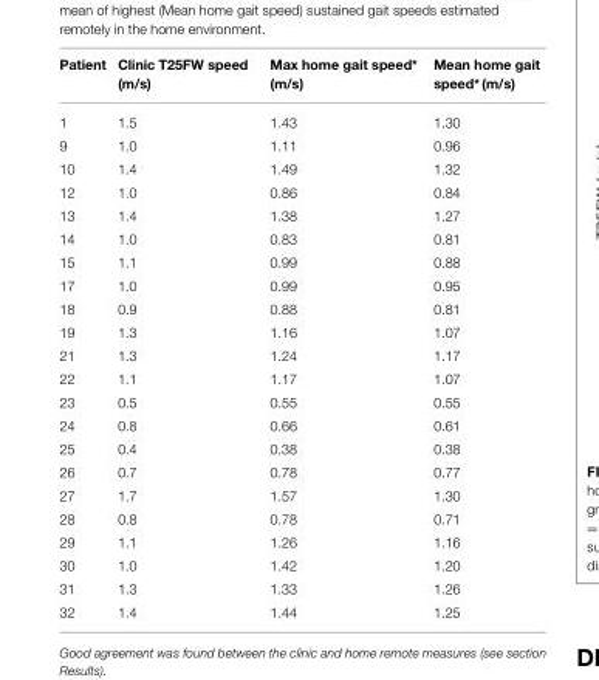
<table><thead><tr><td>Patient</td><td>Clinic T25FW speed (m/s)</td><td>Max home gait speed* (m/s)</td><td>Mean home gait speed* (m/s)</td></tr></thead><tbody><tr><td>1</td><td>1.5</td><td>1.43</td><td>1.30</td></tr><tr><td>9</td><td>1.0</td><td>1.11</td><td>0.96</td></tr><tr><td>10</td><td>1.4</td><td>1.49</td><td>1.32</td></tr><tr><td>12</td><td>1.0</td><td>0.86</td><td>0.84</td></tr><tr><td>13</td><td>1.4</td><td>1.38</td><td>1.27</td></tr><tr><td>14</td><td>1.0</td><td>0.83</td><td>0.81</td></tr><tr><td>15</td><td>1.1</td><td>0.99</td><td>0.88</td></tr><tr><td>17</td><td>1.0</td><td>0.99</td><td>0.95</td></tr><tr><td>18</td><td>0.9</td><td>0.88</td><td>0.81</td></tr><tr><td>19</td><td>1.3</td><td>1.16</td><td>1.07</td></tr><tr><td>21</td><td>1.3</td><td>1.24</td><td>1.17</td></tr><tr><td>22</td><td>1.1</td><td>1.17</td><td>1.07</td></tr><tr><td>23</td><td>0.5</td><td>0.55</td><td>0.55</td></tr><tr><td>24</td><td>0.8</td><td>0.66</td><td>0.61</td></tr><tr><td>25</td><td>0.4</td><td>0.38</td><td>0.38</td></tr><tr><td>26</td><td>0.7</td><td>0.78</td><td>0.77</td></tr><tr><td>27</td><td>1.7</td><td>1.57</td><td>1.30</td></tr><tr><td>28</td><td>0.8</td><td>0.78</td><td>0.71</td></tr><tr><td>29</td><td>1.1</td><td>1.26</td><td>1.16</td></tr><tr><td>30</td><td>1.0</td><td>1.42</td><td>1.20</td></tr><tr><td>31</td><td>1.3</td><td>1.33</td><td>1.26</td></tr><tr><td>32</td><td>1.4</td><td>1.44</td><td>1.25</td></tr></tbody></table>